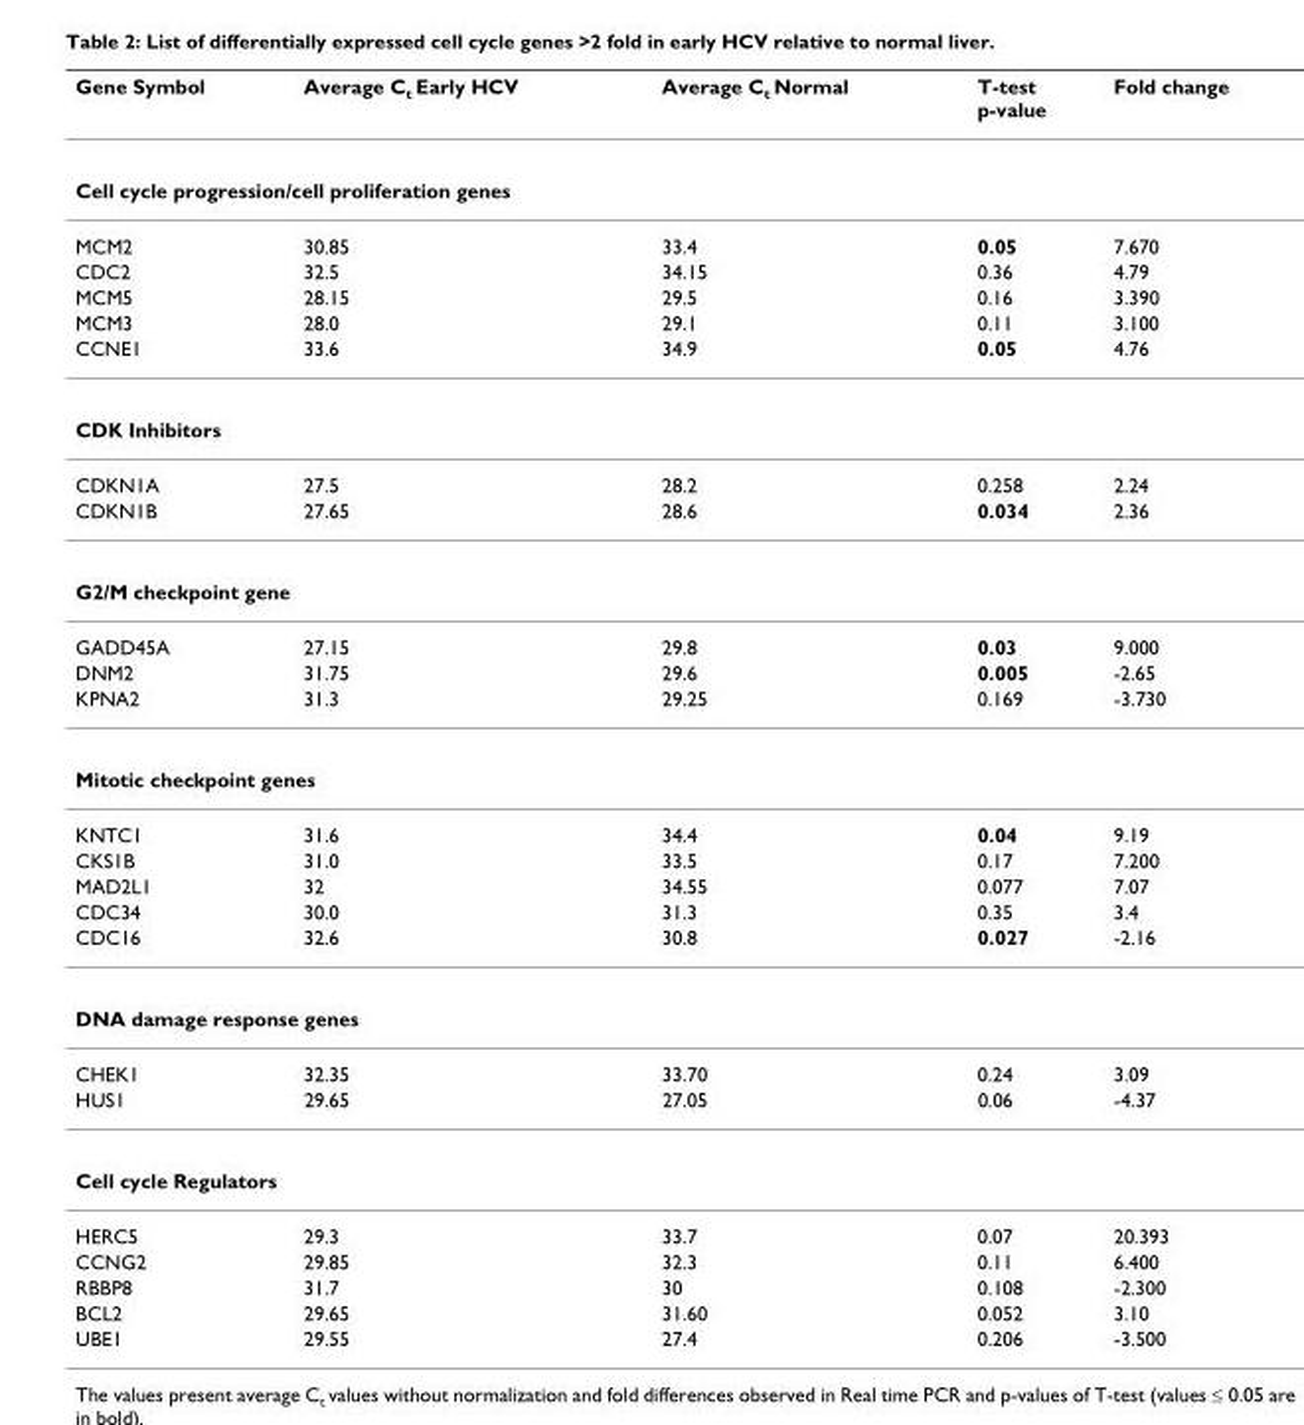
<table><thead><tr><td>Gene Symbol</td><td>Average C<sub>t</sub> Early HCV</td><td>Average C<sub>t</sub> Normal</td><td>T-test p-value</td><td>Fold change</td></tr></thead><tbody><tr><td colspan="5">Cell cycle progression/cell proliferation genes</td></tr><tr><td>MCM2</td><td>30.85</td><td>33.4</td><td>0.05</td><td>7.670</td></tr><tr><td>CDC2</td><td>32.5</td><td>34.15</td><td>0.36</td><td>4.79</td></tr><tr><td>MCM5</td><td>28.15</td><td>29.5</td><td>0.16</td><td>3.390</td></tr><tr><td>MCM3</td><td>28.0</td><td>29.1</td><td>0.11</td><td>3.100</td></tr><tr><td>CCNE1</td><td>33.6</td><td>34.9</td><td>0.05</td><td>4.76</td></tr><tr><td colspan="5">CDK Inhibitors</td></tr><tr><td>CDKN1A</td><td>27.5</td><td>28.2</td><td>0.258</td><td>2.24</td></tr><tr><td>CDKN1B</td><td>27.65</td><td>28.6</td><td>0.034</td><td>2.36</td></tr><tr><td colspan="5">G2/M checkpoint gene</td></tr><tr><td>GADD45A</td><td>27.15</td><td>29.8</td><td>0.03</td><td>9.000</td></tr><tr><td>DNM2</td><td>31.75</td><td>29.6</td><td>0.005</td><td>-2.65</td></tr><tr><td>KPNA2</td><td>31.3</td><td>29.25</td><td>0.169</td><td>-3.730</td></tr><tr><td colspan="5">Mitotic checkpoint genes</td></tr><tr><td>KNTC1</td><td>31.6</td><td>34.4</td><td>0.04</td><td>9.19</td></tr><tr><td>CKS1B</td><td>31.0</td><td>33.5</td><td>0.17</td><td>7.200</td></tr><tr><td>MAD2L1</td><td>32</td><td>34.55</td><td>0.077</td><td>7.07</td></tr><tr><td>CDC34</td><td>30.0</td><td>31.3</td><td>0.35</td><td>3.4</td></tr><tr><td>CDC16</td><td>32.6</td><td>30.8</td><td>0.027</td><td>-2.16</td></tr><tr><td colspan="5">DNA damage response genes</td></tr><tr><td>CHEK1</td><td>32.35</td><td>33.70</td><td>0.24</td><td>3.09</td></tr><tr><td>HUS1</td><td>29.65</td><td>27.05</td><td>0.06</td><td>-4.37</td></tr><tr><td colspan="5">Cell cycle Regulators</td></tr><tr><td>HERC5</td><td>29.3</td><td>33.7</td><td>0.07</td><td>20.393</td></tr><tr><td>CCNG2</td><td>29.85</td><td>32.3</td><td>0.11</td><td>6.400</td></tr><tr><td>RBBP8</td><td>31.7</td><td>30</td><td>0.108</td><td>-2.300</td></tr><tr><td>BCL2</td><td>29.65</td><td>31.60</td><td>0.052</td><td>3.10</td></tr><tr><td>UBE1</td><td>29.55</td><td>27.4</td><td>0.206</td><td>-3.500</td></tr></tbody></table>